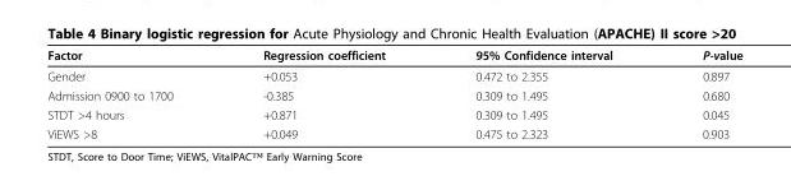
<table><thead><tr><td>Factor</td><td>Regression coefficient</td><td>95% Confidence interval</td><td>P-value</td></tr></thead><tbody><tr><td>Gender</td><td>+0.053</td><td>0.472 to 2.355</td><td>0.897</td></tr><tr><td>Admission 0900 to 1700</td><td>-0.385</td><td>0.309 to 1.495</td><td>0.680</td></tr><tr><td>STDT &gt;4 hours</td><td>+0.871</td><td>0.309 to 1.495</td><td>0.045</td></tr><tr><td>ViEWS &gt;8</td><td>+0.049</td><td>0.475 to 2.323</td><td>0.903</td></tr></tbody></table>